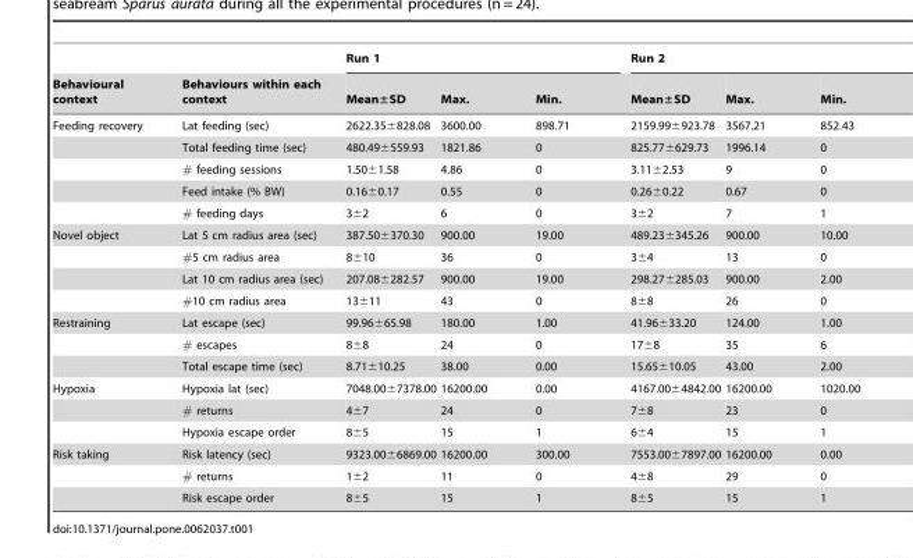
<table><thead><tr><td rowspan="2">Behavioural context</td><td rowspan="2">Behaviours within each context</td><td colspan="3">Run 1</td><td colspan="3">Run 2</td></tr><tr><td>Mean±SD</td><td>Max.</td><td>Min.</td><td>Mean±SD</td><td>Max.</td><td>Min.</td></tr></thead><tbody><tr><td rowspan="5">Feeding recovery</td><td>Lat feeding (sec)</td><td>2622.35±828.08</td><td>3600.00</td><td>898.71</td><td>2159.99±923.78</td><td>3567.21</td><td>852.43</td></tr><tr><td>Total feeding time (sec)</td><td>480.49±559.93</td><td>1821.86</td><td>0</td><td>825.77±629.73</td><td>1996.14</td><td>0</td></tr><tr><td># feeding sessions</td><td>1.50±1.58</td><td>4.86</td><td>0</td><td>3.11±2.53</td><td>9</td><td>0</td></tr><tr><td>Feed intake (% BW)</td><td>0.16±0.17</td><td>0.55</td><td>0</td><td>0.26±0.22</td><td>0.67</td><td>0</td></tr><tr><td># feeding days</td><td>3±2</td><td>6</td><td>0</td><td>3±2</td><td>7</td><td>1</td></tr><tr><td rowspan="4">Novel object</td><td>Lat 5 cm radius area (sec)</td><td>387.50±370.30</td><td>900.00</td><td>19.00</td><td>489.23±345.26</td><td>900.00</td><td>10.00</td></tr><tr><td>#5 cm radius area</td><td>8±10</td><td>36</td><td>0</td><td>3±4</td><td>13</td><td>0</td></tr><tr><td>Lat 10 cm radius area (sec)</td><td>207.08±282.57</td><td>900.00</td><td>19.00</td><td>298.27±285.03</td><td>900.00</td><td>2.00</td></tr><tr><td>#10 cm radius area</td><td>13±11</td><td>43</td><td>0</td><td>8±8</td><td>26</td><td>0</td></tr><tr><td rowspan="3">Restraining</td><td>Lat escape (sec)</td><td>99.96±65.98</td><td>180.00</td><td>1.00</td><td>41.96±33.20</td><td>124.00</td><td>1.00</td></tr><tr><td># escapes</td><td>8±8</td><td>24</td><td>0</td><td>17±8</td><td>35</td><td>6</td></tr><tr><td>Total escape time (sec)</td><td>8.71±10.25</td><td>38.00</td><td>0.00</td><td>15.65±10.05</td><td>43.00</td><td>2.00</td></tr><tr><td rowspan="3">Hypoxia</td><td>Hypoxia lat (sec)</td><td>7048.00±7378.00</td><td>16200.00</td><td>0.00</td><td>4167.00±4842.00</td><td>16200.00</td><td>1020.00</td></tr><tr><td># returns</td><td>4±7</td><td>24</td><td>0</td><td>7±8</td><td>23</td><td>0</td></tr><tr><td>Hypoxia escape order</td><td>8±5</td><td>15</td><td>1</td><td>6±4</td><td>15</td><td>1</td></tr><tr><td rowspan="3">Risk taking</td><td>Risk latency (sec)</td><td>9323.00±6869.00</td><td>16200.00</td><td>300.00</td><td>7553.00±7897.00</td><td>16200.00</td><td>0.00</td></tr><tr><td># returns</td><td>1±2</td><td>11</td><td>0</td><td>4±8</td><td>29</td><td>0</td></tr><tr><td>Risk escape order</td><td>8±5</td><td>15</td><td>1</td><td>8±5</td><td>15</td><td>1</td></tr></tbody></table>